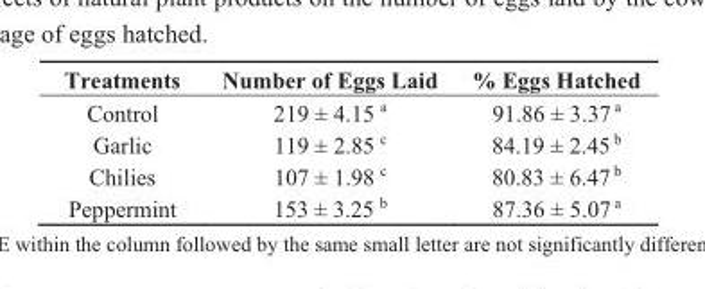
<table><thead><tr><td>Treatments</td><td>Number of Eggs Laid</td><td>% Eggs Hatched</td></tr></thead><tbody><tr><td>Control</td><td>219 ± 4.15 <sup>a</sup></td><td>91.86 ± 3.37 <sup>a</sup></td></tr><tr><td>Garlic</td><td>119 ± 2.85 <sup>c</sup></td><td>84.19 ± 2.45 <sup>b</sup></td></tr><tr><td>Chilies</td><td>107 ± 1.98 <sup>c</sup></td><td>80.83 ± 6.47 <sup>b</sup></td></tr><tr><td>Peppermint</td><td>153 ± 3.25 <sup>b</sup></td><td>87.36 ± 5.07 <sup>a</sup></td></tr></tbody></table>